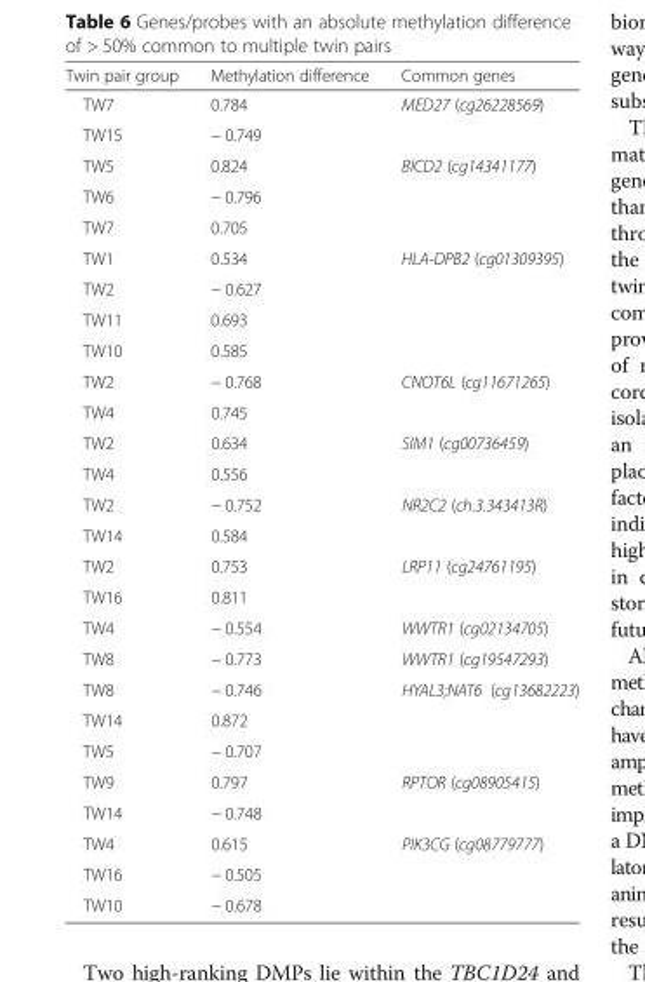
<table><thead><tr><td>Twin pair group</td><td>Methylation difference</td><td>Common genes</td></tr></thead><tbody><tr><td>TW7</td><td>0.784</td><td rowspan="2">MED27 (cg26228569)</td></tr><tr><td>TW15</td><td>− 0.749</td></tr><tr><td>TW5</td><td>0.824</td><td rowspan="3">BICD2 (cg14341177)</td></tr><tr><td>TW6</td><td>− 0.796</td></tr><tr><td>TW7</td><td>0.705</td></tr><tr><td>TW1</td><td>0.534</td><td rowspan="4">HLA-DPB2 (cg01309395)</td></tr><tr><td>TW2</td><td>− 0.627</td></tr><tr><td>TW11</td><td>0.693</td></tr><tr><td>TW10</td><td>0.585</td></tr><tr><td>TW2</td><td>− 0.768</td><td rowspan="2">CNOT6L (cg11671265)</td></tr><tr><td>TW4</td><td>0.745</td></tr><tr><td>TW2</td><td>0.634</td><td rowspan="2">SIM1 (cg00736459)</td></tr><tr><td>TW4</td><td>0.556</td></tr><tr><td>TW2</td><td>− 0.752</td><td rowspan="2">NR2C2 (ch.3.343413R)</td></tr><tr><td>TW14</td><td>0.584</td></tr><tr><td>TW2</td><td>0.753</td><td rowspan="2">LRP11 (cg24761195)</td></tr><tr><td>TW16</td><td>0.811</td></tr><tr><td>TW4</td><td>− 0.554</td><td>WWTR1 (cg02134705)</td></tr><tr><td>TW8</td><td>− 0.773</td><td>WWTR1 (cg19547293)</td></tr><tr><td>TW8</td><td>− 0.746</td><td rowspan="3">HYAL3;NAT6 (cg13682223)</td></tr><tr><td>TW14</td><td>0.872</td></tr><tr><td>TW5</td><td>− 0.707</td></tr><tr><td>TW9</td><td>0.797</td><td rowspan="2">RPTOR (cg08905415)</td></tr><tr><td>TW14</td><td>− 0.748</td></tr><tr><td>TW4</td><td>0.615</td><td rowspan="3">PIK3CG (cg08779777)</td></tr><tr><td>TW16</td><td>− 0.505</td></tr><tr><td>TW10</td><td>− 0.678</td></tr></tbody></table>